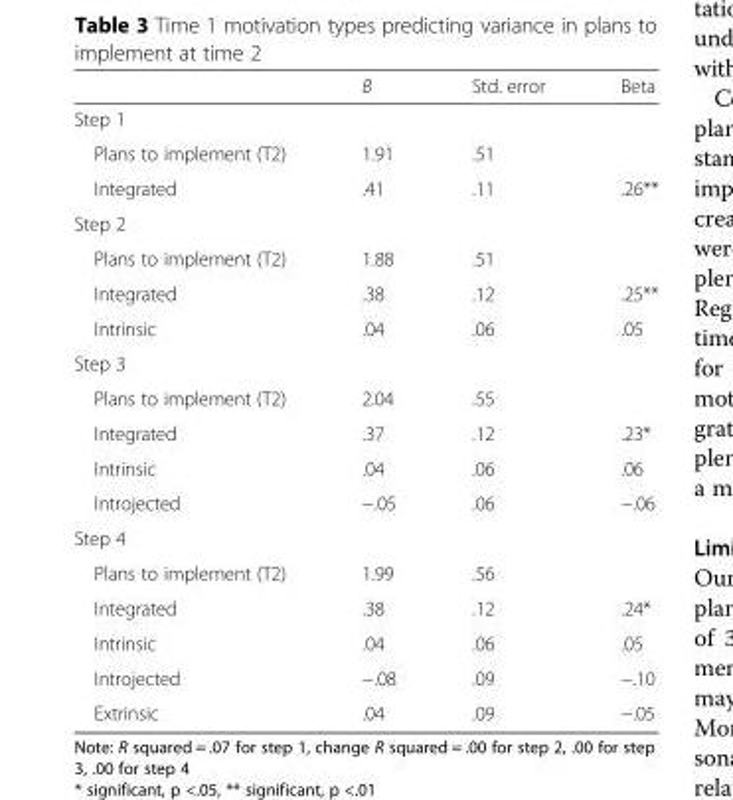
<table><thead><tr><td></td><td>B</td><td>Std. error</td><td>Beta</td></tr></thead><tbody><tr><td colspan="4">Step 1</td></tr><tr><td>Plans to implement (T2)</td><td>1.91</td><td>.51</td><td></td></tr><tr><td>Integrated</td><td>.41</td><td>.11</td><td>.26**</td></tr><tr><td colspan="4">Step 2</td></tr><tr><td>Plans to implement (T2)</td><td>1.88</td><td>.51</td><td></td></tr><tr><td>Integrated</td><td>.38</td><td>.12</td><td>.25**</td></tr><tr><td>Intrinsic</td><td>.04</td><td>.06</td><td>.05</td></tr><tr><td colspan="4">Step 3</td></tr><tr><td>Plans to implement (T2)</td><td>2.04</td><td>.55</td><td></td></tr><tr><td>Integrated</td><td>.37</td><td>.12</td><td>.23*</td></tr><tr><td>Intrinsic</td><td>.04</td><td>.06</td><td>.06</td></tr><tr><td>Introjected</td><td>−.05</td><td>.06</td><td>−.06</td></tr><tr><td colspan="4">Step 4</td></tr><tr><td>Plans to implement (T2)</td><td>1.99</td><td>.56</td><td></td></tr><tr><td>Integrated</td><td>.38</td><td>.12</td><td>.24*</td></tr><tr><td>Intrinsic</td><td>.04</td><td>.06</td><td>.05</td></tr><tr><td>Introjected</td><td>−.08</td><td>.09</td><td>−.10</td></tr><tr><td>Extrinsic</td><td>.04</td><td>.09</td><td>−.05</td></tr></tbody></table>